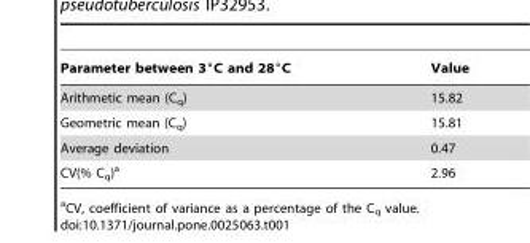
<table><thead><tr><td>Parameter between 3°C and 28°C</td><td>Value</td></tr></thead><tbody><tr><td>Arithmetic mean (C<sub>q</sub>)</td><td>15.82</td></tr><tr><td>Geometric mean (C<sub>q</sub>)</td><td>15.81</td></tr><tr><td>Average deviation</td><td>0.47</td></tr><tr><td>CV(% C<sub>q</sub>)<sup>a</sup></td><td>2.96</td></tr></tbody></table>